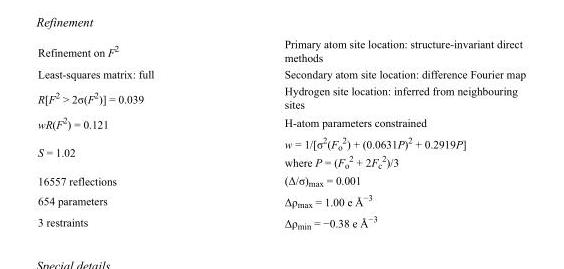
<table><tbody><tr><td>Refinement on F<sup>2</sup></td><td>Primary atom site location: structure-invariant direct methods</td></tr><tr><td>Least-squares matrix: full</td><td>Secondary atom site location: difference Fourier map</td></tr><tr><td>R[F<sup>2</sup> &gt; 2σ(F<sup>2</sup>)] = 0.039</td><td>Hydrogen site location: inferred from neighbouring sites</td></tr><tr><td>wR(F<sup>2</sup>) = 0.121</td><td>H-atom parameters constrained</td></tr><tr><td>S = 1.02</td><td>w = 1/[σ<sup>2</sup>(F<sub>o</sub> <sup>2</sup>) + (0.0631P)<sup>2</sup> + 0.2919P] where P = (F<sub>o</sub> <sup>2</sup> + 2F<sub>c</sub> <sup>2</sup>)/3</td></tr><tr><td>16557 reflections</td><td>(Δ/σ)<sub>max</sub> = 0.001</td></tr><tr><td>654 parameters</td><td>Δρ<sub>max</sub> = 1.00 e Å<sup>−3</sup></td></tr><tr><td>3 restraints</td><td>Δρ<sub>min</sub> = −0.38 e Å<sup>−3</sup></td></tr></tbody></table>